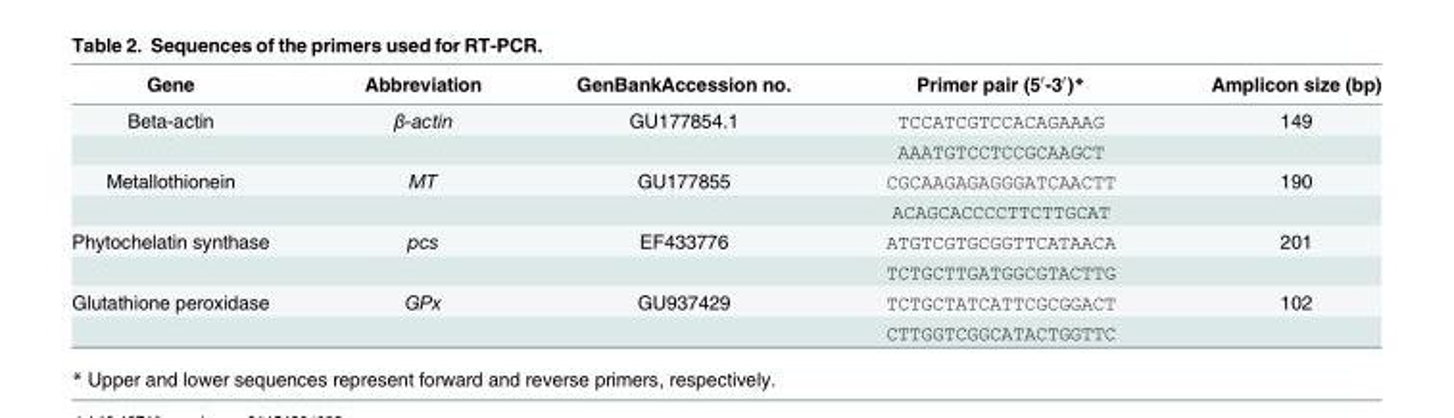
<table><thead><tr><td>Gene</td><td>Abbreviation</td><td>GenBankAccession no.</td><td>Primer pair (5′-3′)*</td><td>Amplicon size (bp)</td></tr></thead><tbody><tr><td rowspan="2">Beta-actin</td><td>β-actin</td><td>GU177854.1</td><td>TCCATCGTCCACAGAAAG</td><td>149</td></tr><tr><td></td><td></td><td>AAATGTCCTCCGCAAGCT</td><td></td></tr><tr><td rowspan="2">Metallothionein</td><td>MT</td><td>GU177855</td><td>CGCAAGAGAGGGATCAACTT</td><td>190</td></tr><tr><td></td><td></td><td>ACAGCACCCCTTCTTGCAT</td><td></td></tr><tr><td rowspan="2">Phytochelatin synthase</td><td>pcs</td><td>EF433776</td><td>ATGTCGTGCGGTTCATAACA</td><td>201</td></tr><tr><td></td><td></td><td>TCTGCTTGATGGCGTACTTG</td><td></td></tr><tr><td rowspan="2">Glutathione peroxidase</td><td>GPx</td><td>GU937429</td><td>TCTGCTATCATTCGCGGACT</td><td>102</td></tr><tr><td></td><td></td><td>CTTGGTCGGCATACTGGTTC</td><td></td></tr></tbody></table>